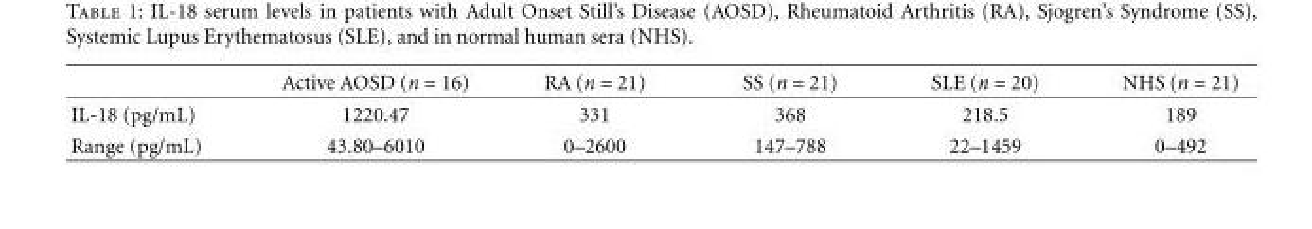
<table><thead><tr><td></td><td>Active AOSD (n = 16)</td><td>RA (n = 21)</td><td>SS (n = 21)</td><td>SLE (n = 20)</td><td>NHS (n = 21)</td></tr></thead><tbody><tr><td>IL-18 (pg/mL)</td><td>1220.47</td><td>331</td><td>368</td><td>218.5</td><td>189</td></tr><tr><td>Range (pg/mL)</td><td>43.80–6010</td><td>0–2600</td><td>147–788</td><td>22–1459</td><td>0–492</td></tr></tbody></table>